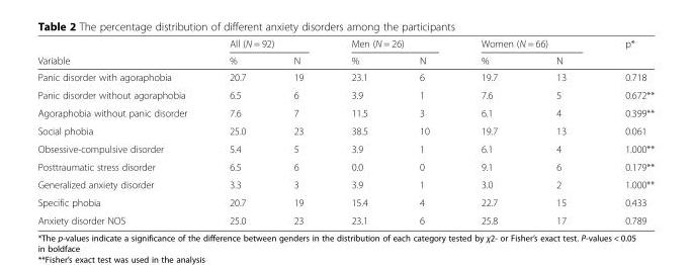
<table><thead><tr><td rowspan="2">Variable</td><td colspan="2">All (N = 92)</td><td colspan="2">Men (N = 26)</td><td colspan="2">Women (N = 66)</td><td rowspan="2">p*</td></tr><tr><td>%</td><td>N</td><td>%</td><td>N</td><td>%</td><td>N</td></tr></thead><tbody><tr><td>Panic disorder with agoraphobia</td><td>20.7</td><td>19</td><td>23.1</td><td>6</td><td>19.7</td><td>13</td><td>0.718</td></tr><tr><td>Panic disorder without agoraphobia</td><td>6.5</td><td>6</td><td>3.9</td><td>1</td><td>7.6</td><td>5</td><td>0.672**</td></tr><tr><td>Agoraphobia without panic disorder</td><td>7.6</td><td>7</td><td>11.5</td><td>3</td><td>6.1</td><td>4</td><td>0.399**</td></tr><tr><td>Social phobia</td><td>25.0</td><td>23</td><td>38.5</td><td>10</td><td>19.7</td><td>13</td><td>0.061</td></tr><tr><td>Obsessive-compulsive disorder</td><td>5.4</td><td>5</td><td>3.9</td><td>1</td><td>6.1</td><td>4</td><td>1.000**</td></tr><tr><td>Posttraumatic stress disorder</td><td>6.5</td><td>6</td><td>0.0</td><td>0</td><td>9.1</td><td>6</td><td>0.179**</td></tr><tr><td>Generalized anxiety disorder</td><td>3.3</td><td>3</td><td>3.9</td><td>1</td><td>3.0</td><td>2</td><td>1.000**</td></tr><tr><td>Specific phobia</td><td>20.7</td><td>19</td><td>15.4</td><td>4</td><td>22.7</td><td>15</td><td>0.433</td></tr><tr><td>Anxiety disorder NOS</td><td>25.0</td><td>23</td><td>23.1</td><td>6</td><td>25.8</td><td>17</td><td>0.789</td></tr></tbody></table>